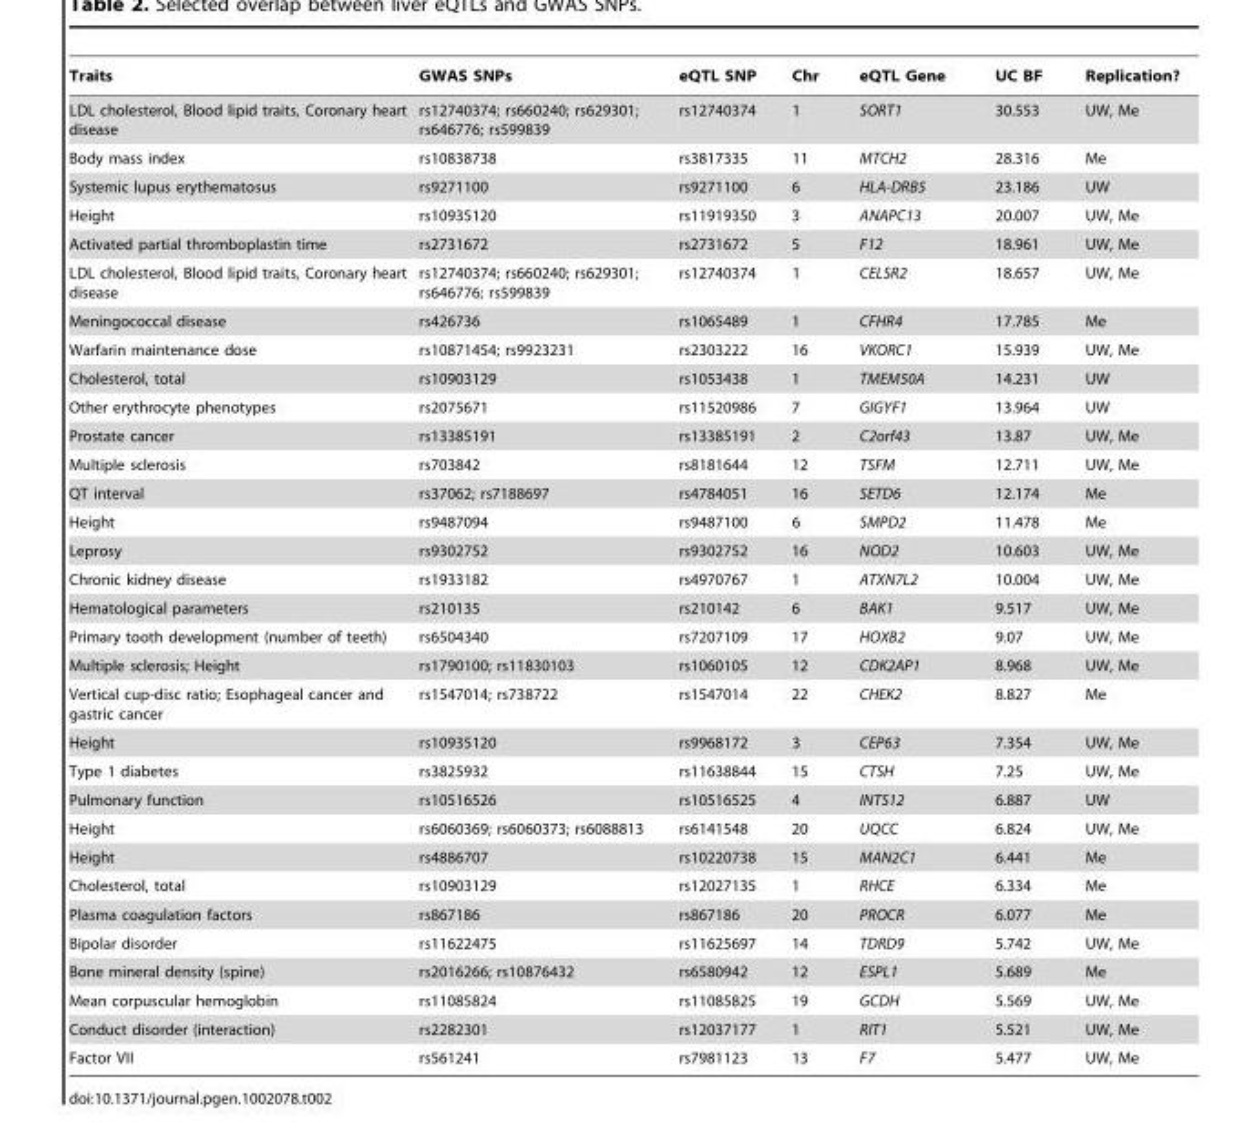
<table><thead><tr><td>Traits</td><td>GWAS SNPs</td><td>eQTL SNP</td><td>Chr</td><td>eQTL Gene</td><td>UC BF</td><td>Replication?</td></tr></thead><tbody><tr><td>LDL cholesterol, Blood lipid traits, Coronary heart disease</td><td>rs12740374; rs660240; rs629301; rs646776; rs599839</td><td>rs12740374</td><td>1</td><td>SORT1</td><td>30.553</td><td>UW, Me</td></tr><tr><td>Body mass index</td><td>rs10838738</td><td>rs3817335</td><td>11</td><td>MTCH2</td><td>28.316</td><td>Me</td></tr><tr><td>Systemic lupus erythematosus</td><td>rs9271100</td><td>rs9271100</td><td>6</td><td>HLA-DRB5</td><td>23.186</td><td>UW</td></tr><tr><td>Height</td><td>rs10935120</td><td>rs11919350</td><td>3</td><td>ANAPC13</td><td>20.007</td><td>UW, Me</td></tr><tr><td>Activated partial thromboplastin time</td><td>rs2731672</td><td>rs2731672</td><td>5</td><td>F12</td><td>18.961</td><td>UW, Me</td></tr><tr><td>LDL cholesterol, Blood lipid traits, Coronary heart disease</td><td>rs12740374; rs660240; rs629301; rs646776; rs599839</td><td>rs12740374</td><td>1</td><td>CELSR2</td><td>18.657</td><td>UW, Me</td></tr><tr><td>Meningococcal disease</td><td>rs426736</td><td>rs1065489</td><td>1</td><td>CFHR4</td><td>17.785</td><td>Me</td></tr><tr><td>Warfarin maintenance dose</td><td>rs10871454; rs9923231</td><td>rs2303222</td><td>16</td><td>VKORC1</td><td>15.939</td><td>UW, Me</td></tr><tr><td>Cholesterol, total</td><td>rs10903129</td><td>rs1053438</td><td>1</td><td>TMEM50A</td><td>14.231</td><td>UW</td></tr><tr><td>Other erythrocyte phenotypes</td><td>rs2075671</td><td>rs11520986</td><td>7</td><td>GIGYF1</td><td>13.964</td><td>UW</td></tr><tr><td>Prostate cancer</td><td>rs13385191</td><td>rs13385191</td><td>2</td><td>C2orf43</td><td>13.87</td><td>UW, Me</td></tr><tr><td>Multiple sclerosis</td><td>rs703842</td><td>rs8181644</td><td>12</td><td>TSFM</td><td>12.711</td><td>UW, Me</td></tr><tr><td>QT interval</td><td>rs37062; rs7188697</td><td>rs4784051</td><td>16</td><td>SETD6</td><td>12.174</td><td>Me</td></tr><tr><td>Height</td><td>rs9487094</td><td>rs9487100</td><td>6</td><td>SMPD2</td><td>11.478</td><td>Me</td></tr><tr><td>Leprosy</td><td>rs9302752</td><td>rs9302752</td><td>16</td><td>NOD2</td><td>10.603</td><td>UW, Me</td></tr><tr><td>Chronic kidney disease</td><td>rs1933182</td><td>rs4970767</td><td>1</td><td>ATXN7L2</td><td>10.004</td><td>UW, Me</td></tr><tr><td>Hematological parameters</td><td>rs210135</td><td>rs210142</td><td>6</td><td>BAK1</td><td>9.517</td><td>UW, Me</td></tr><tr><td>Primary tooth development (number of teeth)</td><td>rs6504340</td><td>rs7207109</td><td>17</td><td>HOXB2</td><td>9.07</td><td>UW, Me</td></tr><tr><td>Multiple sclerosis; Height</td><td>rs1790100; rs11830103</td><td>rs1060105</td><td>12</td><td>CDK2AP1</td><td>8.968</td><td>UW, Me</td></tr><tr><td>Vertical cup-disc ratio; Esophageal cancer and gastric cancer</td><td>rs1547014; rs738722</td><td>rs1547014</td><td>22</td><td>CHEK2</td><td>8.827</td><td>Me</td></tr><tr><td>Height</td><td>rs10935120</td><td>rs9968172</td><td>3</td><td>CEP63</td><td>7.354</td><td>UW, Me</td></tr><tr><td>Type 1 diabetes</td><td>rs3825932</td><td>rs11638844</td><td>15</td><td>CTSH</td><td>7.25</td><td>UW, Me</td></tr><tr><td>Pulmonary function</td><td>rs10516526</td><td>rs10516525</td><td>4</td><td>INTS12</td><td>6.887</td><td>UW</td></tr><tr><td>Height</td><td>rs6060369; rs6060373; rs6088813</td><td>rs6141548</td><td>20</td><td>UQCC</td><td>6.824</td><td>UW, Me</td></tr><tr><td>Height</td><td>rs4886707</td><td>rs10220738</td><td>15</td><td>MAN2C1</td><td>6.441</td><td>Me</td></tr><tr><td>Cholesterol, total</td><td>rs10903129</td><td>rs12027135</td><td>1</td><td>RHCE</td><td>6.334</td><td>Me</td></tr><tr><td>Plasma coagulation factors</td><td>rs867186</td><td>rs867186</td><td>20</td><td>PROCR</td><td>6.077</td><td>Me</td></tr><tr><td>Bipolar disorder</td><td>rs11622475</td><td>rs11625697</td><td>14</td><td>TDRD9</td><td>5.742</td><td>UW, Me</td></tr><tr><td>Bone mineral density (spine)</td><td>rs2016266; rs10876432</td><td>rs6580942</td><td>12</td><td>ESPL1</td><td>5.689</td><td>Me</td></tr><tr><td>Mean corpuscular hemoglobin</td><td>rs11085824</td><td>rs11085825</td><td>19</td><td>GCDH</td><td>5.569</td><td>UW, Me</td></tr><tr><td>Conduct disorder (interaction)</td><td>rs2282301</td><td>rs12037177</td><td>1</td><td>RIT1</td><td>5.521</td><td>UW, Me</td></tr><tr><td>Factor VII</td><td>rs561241</td><td>rs7981123</td><td>13</td><td>F7</td><td>5.477</td><td>UW, Me</td></tr></tbody></table>